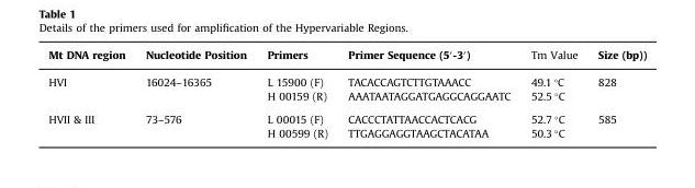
<table><thead><tr><td>Mt DNA region</td><td>Nucleotide Position</td><td>Primers</td><td>Primer Sequence (5′-3′)</td><td>Tm Value</td><td>Size (bp))</td></tr></thead><tbody><tr><td rowspan="2">HVI</td><td rowspan="2">16024–16365</td><td>L 15900 (F)</td><td>TACACCAGTCTTGTAAACC</td><td>49.1 °C</td><td rowspan="2">828</td></tr><tr><td>H 00159 (R)</td><td>AAATAATAGGATGAGGCAGGAATC</td><td>52.5 °C</td></tr><tr><td rowspan="2">HVII &amp; III</td><td rowspan="2">73–576</td><td>L 00015 (F)</td><td>CACCCTATTAACCACTCACG</td><td>52.7 °C</td><td rowspan="2">585</td></tr><tr><td>H 00599 (R)</td><td>TTGAGGAGGTAAGCTACATAA</td><td>50.3 °C</td></tr></tbody></table>